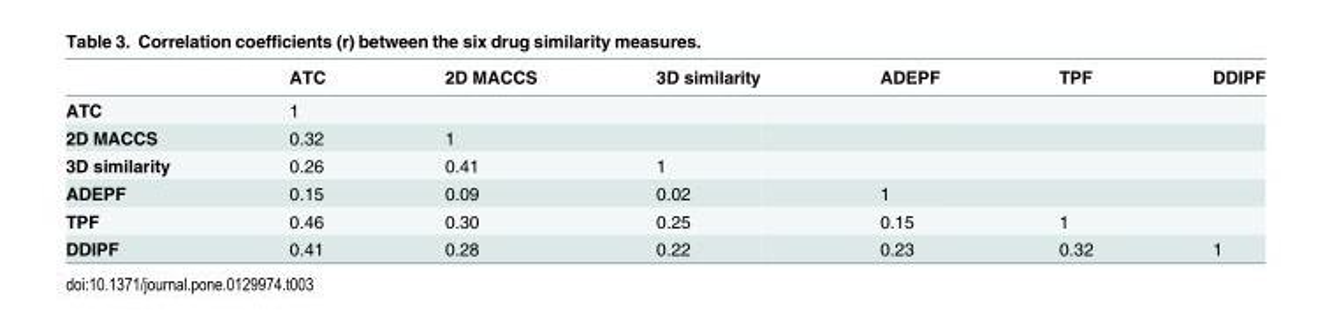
<table><thead><tr><td></td><td>ATC</td><td>2D MACCS</td><td>3D similarity</td><td>ADEPF</td><td>TPF</td><td>DDIPF</td></tr></thead><tbody><tr><td>ATC</td><td>1</td><td></td><td></td><td></td><td></td><td></td></tr><tr><td>2D MACCS</td><td>0.32</td><td>1</td><td></td><td></td><td></td><td></td></tr><tr><td>3D similarity</td><td>0.26</td><td>0.41</td><td>1</td><td></td><td></td><td></td></tr><tr><td>ADEPF</td><td>0.15</td><td>0.09</td><td>0.02</td><td>1</td><td></td><td></td></tr><tr><td>TPF</td><td>0.46</td><td>0.30</td><td>0.25</td><td>0.15</td><td>1</td><td></td></tr><tr><td>DDIPF</td><td>0.41</td><td>0.28</td><td>0.22</td><td>0.23</td><td>0.32</td><td>1</td></tr></tbody></table>